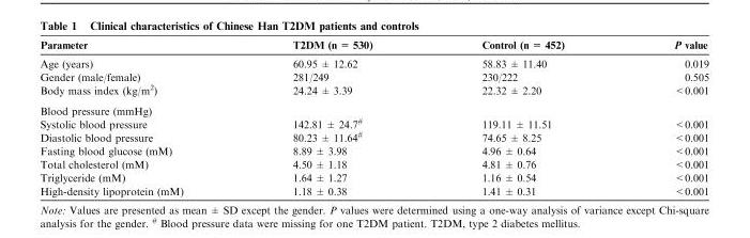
<table><thead><tr><td>Parameter</td><td>T2DM (n = 530)</td><td>Control (n = 452)</td><td>P value</td></tr></thead><tbody><tr><td>Age (years)</td><td>60.95 ± 12.62</td><td>58.83 ± 11.40</td><td>0.019</td></tr><tr><td>Gender (male/female)</td><td>281/249</td><td>230/222</td><td>0.505</td></tr><tr><td>Body mass index (kg/m<sup>2</sup>)</td><td>24.24 ± 3.39</td><td>22.32 ± 2.20</td><td>&lt;0.001</td></tr><tr><td colspan="4">Blood pressure (mmHg)</td></tr><tr><td>Systolic blood pressure</td><td>142.81 ± 24.7<sup>#</sup></td><td>119.11 ± 11.51</td><td>&lt;0.001</td></tr><tr><td>Diastolic blood pressure</td><td>80.23 ± 11.64<sup>#</sup></td><td>74.65 ± 8.25</td><td>&lt;0.001</td></tr><tr><td>Fasting blood glucose (mM)</td><td>8.89 ± 3.98</td><td>4.96 ± 0.64</td><td>&lt;0.001</td></tr><tr><td>Total cholesterol (mM)</td><td>4.50 ± 1.18</td><td>4.81 ± 0.76</td><td>&lt;0.001</td></tr><tr><td>Triglyceride (mM)</td><td>1.64 ± 1.27</td><td>1.16 ± 0.54</td><td>&lt;0.001</td></tr><tr><td>High-density lipoprotein (mM)</td><td>1.18 ± 0.38</td><td>1.41 ± 0.31</td><td>&lt;0.001</td></tr></tbody></table>